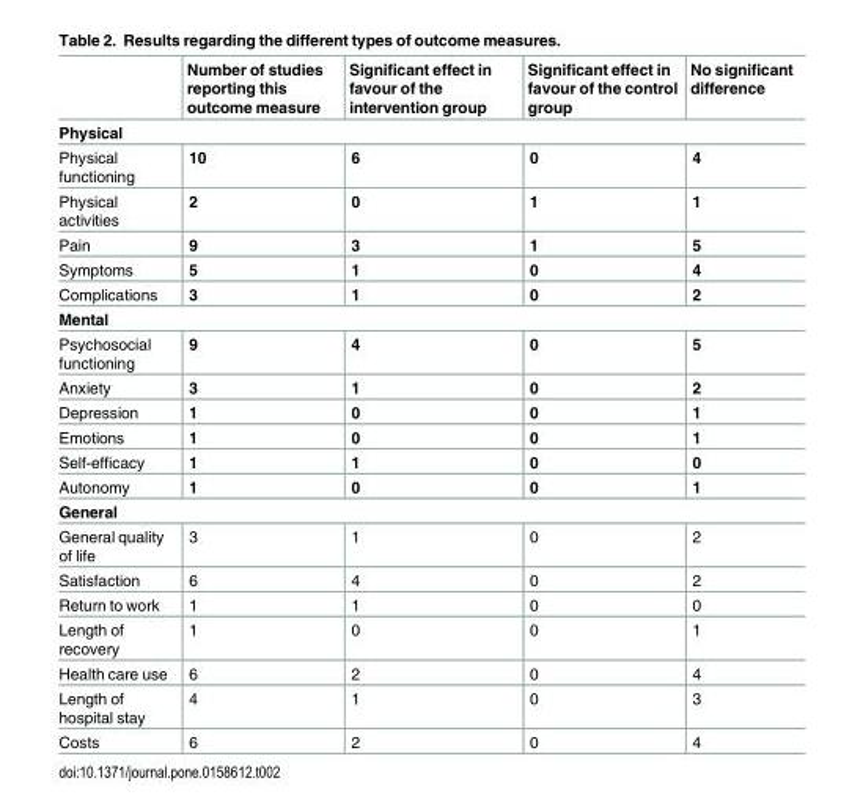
<table><thead><tr><td></td><td>Number of studies reporting this outcome measure</td><td>Significant effect in favour of the intervention group</td><td>Significant effect in favour of the control group</td><td>No significant difference</td></tr></thead><tbody><tr><td colspan="5">Physical</td></tr><tr><td>Physical functioning</td><td>10</td><td>6</td><td>0</td><td>4</td></tr><tr><td>Physical activities</td><td>2</td><td>0</td><td>1</td><td>1</td></tr><tr><td>Pain</td><td>9</td><td>3</td><td>1</td><td>5</td></tr><tr><td>Symptoms</td><td>5</td><td>1</td><td>0</td><td>4</td></tr><tr><td>Complications</td><td>3</td><td>1</td><td>0</td><td>2</td></tr><tr><td colspan="5">Mental</td></tr><tr><td>Psychosocial functioning</td><td>9</td><td>4</td><td>0</td><td>5</td></tr><tr><td>Anxiety</td><td>3</td><td>1</td><td>0</td><td>2</td></tr><tr><td>Depression</td><td>1</td><td>0</td><td>0</td><td>1</td></tr><tr><td>Emotions</td><td>1</td><td>0</td><td>0</td><td>1</td></tr><tr><td>Self-efficacy</td><td>1</td><td>1</td><td>0</td><td>0</td></tr><tr><td>Autonomy</td><td>1</td><td>0</td><td>0</td><td>1</td></tr><tr><td colspan="5">General</td></tr><tr><td>General quality of life</td><td>3</td><td>1</td><td>0</td><td>2</td></tr><tr><td>Satisfaction</td><td>6</td><td>4</td><td>0</td><td>2</td></tr><tr><td>Return to work</td><td>1</td><td>1</td><td>0</td><td>0</td></tr><tr><td>Length of recovery</td><td>1</td><td>0</td><td>0</td><td>1</td></tr><tr><td>Health care use</td><td>6</td><td>2</td><td>0</td><td>4</td></tr><tr><td>Length of hospital stay</td><td>4</td><td>1</td><td>0</td><td>3</td></tr><tr><td>Costs</td><td>6</td><td>2</td><td>0</td><td>4</td></tr></tbody></table>